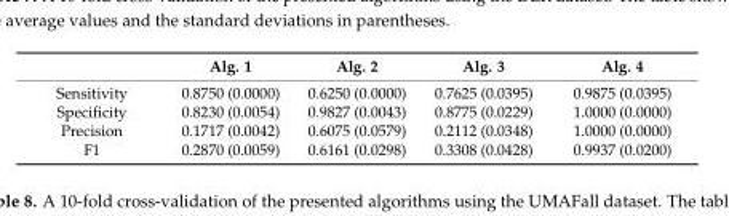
<table><thead><tr><td></td><td>Alg. 1</td><td>Alg. 2</td><td>Alg. 3</td><td>Alg. 4</td></tr></thead><tbody><tr><td>Sensitivity</td><td>0.8750 (0.0000)</td><td>0.6250 (0.0000)</td><td>0.7625 (0.0395)</td><td>0.9875 (0.0395)</td></tr><tr><td>Specificity</td><td>0.8230 (0.0054)</td><td>0.9827 (0.0043)</td><td>0.8775 (0.0229)</td><td>1.0000 (0.0000)</td></tr><tr><td>Precision</td><td>0.1717 (0.0042)</td><td>0.6075 (0.0579)</td><td>0.2112 (0.0348)</td><td>1.0000 (0.0000)</td></tr><tr><td>F1</td><td>0.2870 (0.0059)</td><td>0.6161 (0.0298)</td><td>0.3308 (0.0428)</td><td>0.9937 (0.0200)</td></tr></tbody></table>